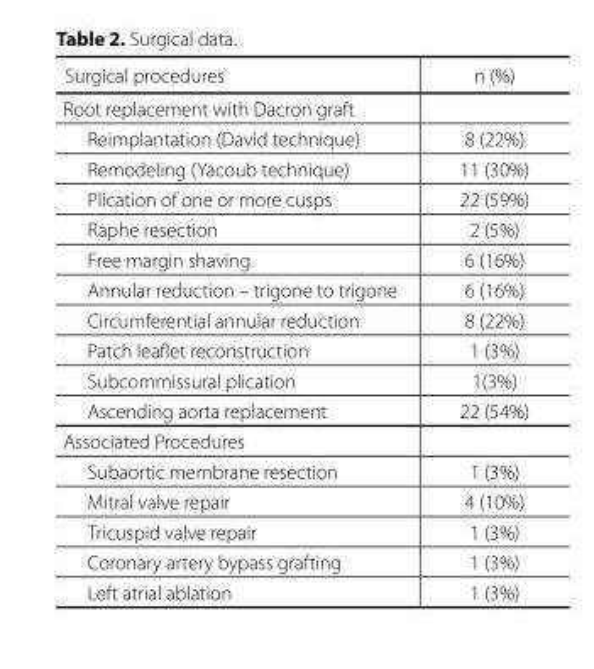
<table><thead><tr><td>Surgical procedures</td><td>n (%)</td></tr></thead><tbody><tr><td colspan="2">Root replacement with Dacron graft</td></tr><tr><td>Reimplantation (David technique)</td><td>8 (22%)</td></tr><tr><td>Remodeling (Yacoub technique)</td><td>11 (30%)</td></tr><tr><td>Plication of one or more cusps</td><td>22 (59%)</td></tr><tr><td>Raphe resection</td><td>2 (5%)</td></tr><tr><td>Free margin shaving</td><td>6 (16%)</td></tr><tr><td>Annular reduction – trigone to trigone</td><td>6 (16%)</td></tr><tr><td>Circumferential annular reduction</td><td>8 (22%)</td></tr><tr><td>Patch leaflet reconstruction</td><td>1 (3%)</td></tr><tr><td>Subcommissural plication</td><td>1(3%)</td></tr><tr><td>Ascending aorta replacement</td><td>22 (54%)</td></tr><tr><td colspan="2">Associated Procedures</td></tr><tr><td>Subaortic membrane resection</td><td>1 (3%)</td></tr><tr><td>Mitral valve repair</td><td>4 (10%)</td></tr><tr><td>Tricuspid valve repair</td><td>1 (3%)</td></tr><tr><td>Coronary artery bypass grafting</td><td>1 (3%)</td></tr><tr><td>Left atrial ablation</td><td>1 (3%)</td></tr></tbody></table>